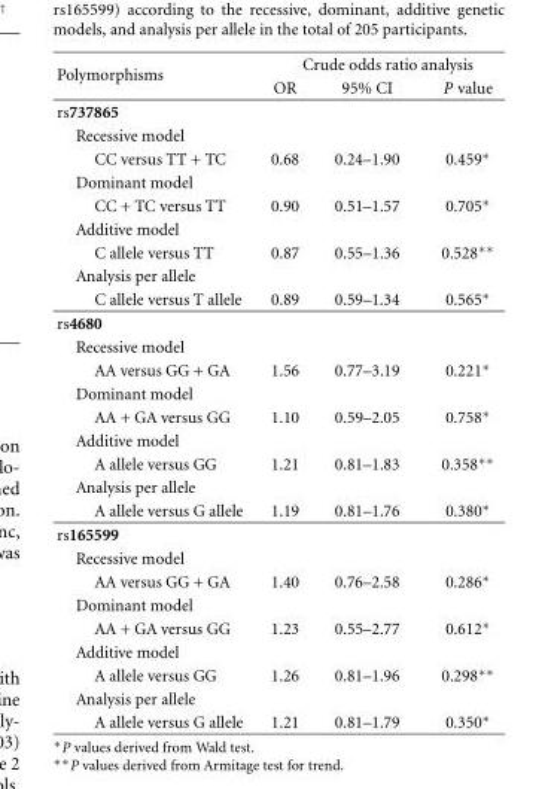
<table><thead><tr><td rowspan="2">Polymorphisms</td><td colspan="3">Crude odds ratio analysis</td></tr><tr><td>OR</td><td>95% CI</td><td>P value</td></tr></thead><tbody><tr><td colspan="4">rs737865</td></tr><tr><td colspan="4">Recessive model</td></tr><tr><td>CC versus TT + TC</td><td>0.68</td><td>0.24–1.90</td><td>0.459∗</td></tr><tr><td colspan="4">Dominant model</td></tr><tr><td>CC + TC versus TT</td><td>0.90</td><td>0.51–1.57</td><td>0.705∗</td></tr><tr><td colspan="4">Additive model</td></tr><tr><td>C allele versus TT</td><td>0.87</td><td>0.55–1.36</td><td>0.528∗∗</td></tr><tr><td colspan="4">Analysis per allele</td></tr><tr><td>C allele versus T allele</td><td>0.89</td><td>0.59–1.34</td><td>0.565∗</td></tr><tr><td colspan="4">rs4680</td></tr><tr><td colspan="4">Recessive model</td></tr><tr><td>AA versus GG + GA</td><td>1.56</td><td>0.77–3.19</td><td>0.221∗</td></tr><tr><td colspan="4">Dominant model</td></tr><tr><td>AA + GA versus GG</td><td>1.10</td><td>0.59–2.05</td><td>0.758∗</td></tr><tr><td colspan="4">Additive model</td></tr><tr><td>A allele versus GG</td><td>1.21</td><td>0.81–1.83</td><td>0.358∗∗</td></tr><tr><td colspan="4">Analysis per allele</td></tr><tr><td>A allele versus G allele</td><td>1.19</td><td>0.81–1.76</td><td>0.380∗</td></tr><tr><td colspan="4">rs165599</td></tr><tr><td colspan="4">Recessive model</td></tr><tr><td>AA versus GG + GA</td><td>1.40</td><td>0.76–2.58</td><td>0.286∗</td></tr><tr><td colspan="4">Dominant model</td></tr><tr><td>AA + GA versus GG</td><td>1.23</td><td>0.55–2.77</td><td>0.612∗</td></tr><tr><td colspan="4">Additive model</td></tr><tr><td>A allele versus GG</td><td>1.26</td><td>0.81–1.96</td><td>0.298∗∗</td></tr><tr><td colspan="4">Analysis per allele</td></tr><tr><td>A allele versus G allele</td><td>1.21</td><td>0.81–1.79</td><td>0.350∗</td></tr></tbody></table>